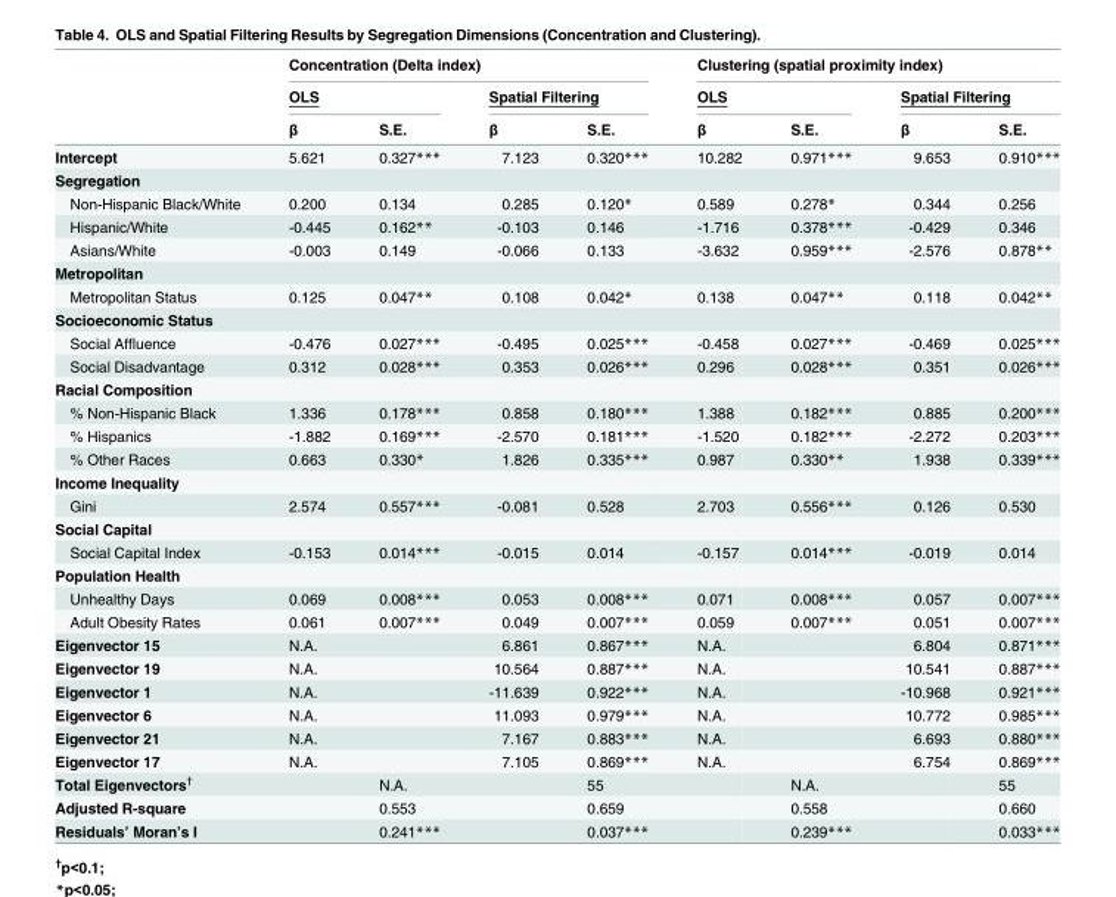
<table><thead><tr><td rowspan="3"></td><td colspan="4">Concentration (Delta index)</td><td colspan="4">Clustering (spatial proximity index)</td></tr><tr><td colspan="2">OLS</td><td colspan="2">Spatial Filtering</td><td colspan="2">OLS</td><td colspan="2">Spatial Filtering</td></tr><tr><td>β</td><td>S.E.</td><td>β</td><td>S.E.</td><td>β</td><td>S.E.</td><td>β</td><td>S.E.</td></tr></thead><tbody><tr><td>Intercept</td><td>5.621</td><td>0.327***</td><td>7.123</td><td>0.320***</td><td>10.282</td><td>0.971***</td><td>9.653</td><td>0.910***</td></tr><tr><td colspan="9">Segregation</td></tr><tr><td>Non-Hispanic Black/White</td><td>0.200</td><td>0.134</td><td>0.285</td><td>0.120*</td><td>0.589</td><td>0.278*</td><td>0.344</td><td>0.256</td></tr><tr><td>Hispanic/White</td><td>-0.445</td><td>0.162**</td><td>-0.103</td><td>0.146</td><td>-1.716</td><td>0.378***</td><td>-0.429</td><td>0.346</td></tr><tr><td>Asians/White</td><td>-0.003</td><td>0.149</td><td>-0.066</td><td>0.133</td><td>-3.632</td><td>0.959***</td><td>-2.576</td><td>0.878**</td></tr><tr><td colspan="9">Metropolitan</td></tr><tr><td>Metropolitan Status</td><td>0.125</td><td>0.047**</td><td>0.108</td><td>0.042*</td><td>0.138</td><td>0.047**</td><td>0.118</td><td>0.042**</td></tr><tr><td colspan="9">Socioeconomic Status</td></tr><tr><td>Social Affluence</td><td>-0.476</td><td>0.027***</td><td>-0.495</td><td>0.025***</td><td>-0.458</td><td>0.027***</td><td>-0.469</td><td>0.025***</td></tr><tr><td>Social Disadvantage</td><td>0.312</td><td>0.028***</td><td>0.353</td><td>0.026***</td><td>0.296</td><td>0.028***</td><td>0.351</td><td>0.026***</td></tr><tr><td colspan="9">Racial Composition</td></tr><tr><td>% Non-Hispanic Black</td><td>1.336</td><td>0.178***</td><td>0.858</td><td>0.180***</td><td>1.388</td><td>0.182***</td><td>0.885</td><td>0.200***</td></tr><tr><td>% Hispanics</td><td>-1.882</td><td>0.169***</td><td>-2.570</td><td>0.181***</td><td>-1.520</td><td>0.182***</td><td>-2.272</td><td>0.203***</td></tr><tr><td>% Other Races</td><td>0.663</td><td>0.330*</td><td>1.826</td><td>0.335***</td><td>0.987</td><td>0.330**</td><td>1.938</td><td>0.339***</td></tr><tr><td colspan="9">Income Inequality</td></tr><tr><td>Gini</td><td>2.574</td><td>0.557***</td><td>-0.081</td><td>0.528</td><td>2.703</td><td>0.556***</td><td>0.126</td><td>0.530</td></tr><tr><td colspan="9">Social Capital</td></tr><tr><td>Social Capital Index</td><td>-0.153</td><td>0.014***</td><td>-0.015</td><td>0.014</td><td>-0.157</td><td>0.014***</td><td>-0.019</td><td>0.014</td></tr><tr><td colspan="9">Population Health</td></tr><tr><td>Unhealthy Days</td><td>0.069</td><td>0.008***</td><td>0.053</td><td>0.008***</td><td>0.071</td><td>0.008***</td><td>0.057</td><td>0.007***</td></tr><tr><td>Adult Obesity Rates</td><td>0.061</td><td>0.007***</td><td>0.049</td><td>0.007***</td><td>0.059</td><td>0.007***</td><td>0.051</td><td>0.007***</td></tr><tr><td>Eigenvector 15</td><td>N.A.</td><td></td><td>6.861</td><td>0.867***</td><td>N.A.</td><td></td><td>6.804</td><td>0.871***</td></tr><tr><td>Eigenvector 19</td><td>N.A.</td><td></td><td>10.564</td><td>0.887***</td><td>N.A.</td><td></td><td>10.541</td><td>0.887***</td></tr><tr><td>Eigenvector 1</td><td>N.A.</td><td></td><td>-11.639</td><td>0.922***</td><td>N.A.</td><td></td><td>-10.968</td><td>0.921***</td></tr><tr><td>Eigenvector 6</td><td>N.A.</td><td></td><td>11.093</td><td>0.979***</td><td>N.A.</td><td></td><td>10.772</td><td>0.985***</td></tr><tr><td>Eigenvector 21</td><td>N.A.</td><td></td><td>7.167</td><td>0.883***</td><td>N.A.</td><td></td><td>6.693</td><td>0.880***</td></tr><tr><td>Eigenvector 17</td><td>N.A.</td><td></td><td>7.105</td><td>0.869***</td><td>N.A.</td><td></td><td>6.754</td><td>0.869***</td></tr><tr><td>Total Eigenvectors<sup>†</sup></td><td></td><td>N.A.</td><td></td><td>55</td><td></td><td>N.A.</td><td></td><td>55</td></tr><tr><td>Adjusted R-square</td><td></td><td>0.553</td><td></td><td>0.659</td><td></td><td>0.558</td><td></td><td>0.660</td></tr><tr><td>Residuals’ Moran’s I</td><td></td><td>0.241***</td><td></td><td>0.037***</td><td></td><td>0.239***</td><td></td><td>0.033***</td></tr></tbody></table>